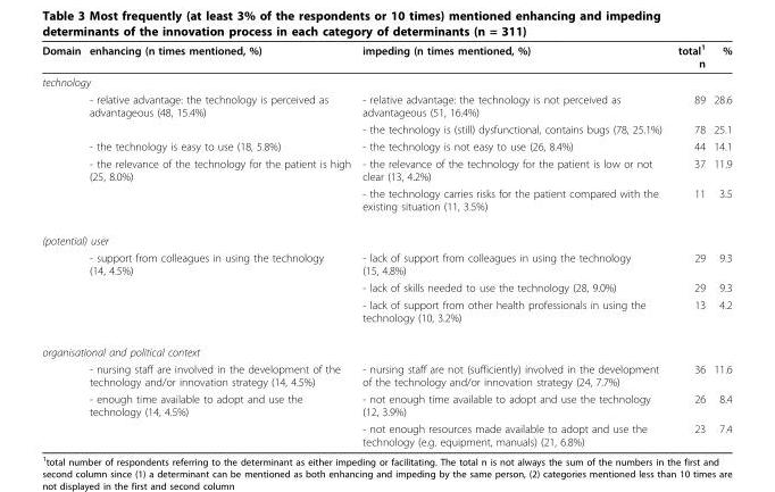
<table><thead><tr><td>Domain</td><td>enhancing (n times mentioned, %)</td><td>impeding (n times mentioned, %)</td><td>total<sup>1</sup> n</td><td>%</td></tr></thead><tbody><tr><td colspan="5">technology</td></tr><tr><td></td><td>- relative advantage: the technology is perceived as advantageous (48, 15.4%)</td><td>- relative advantage: the technology is not perceived as advantageous (51, 16.4%)</td><td>89</td><td>28.6</td></tr><tr><td></td><td></td><td>- the technology is (still) dysfunctional, contains bugs (78, 25.1%)</td><td>78</td><td>25.1</td></tr><tr><td></td><td>- the technology is easy to use (18, 5.8%)</td><td>- the technology is not easy to use (26, 8.4%)</td><td>44</td><td>14.1</td></tr><tr><td></td><td>- the relevance of the technology for the patient is high (25, 8.0%)</td><td>- the relevance of the technology for the patient is low or not clear (13, 4.2%)</td><td>37</td><td>11.9</td></tr><tr><td></td><td></td><td>- the technology carries risks for the patient compared with the existing situation (11, 3.5%)</td><td>11</td><td>3.5</td></tr><tr><td colspan="5">(potential) user</td></tr><tr><td></td><td>- support from colleagues in using the technology (14, 4.5%)</td><td>- lack of support from colleagues in using the technology (15, 4.8%)</td><td>29</td><td>9.3</td></tr><tr><td></td><td></td><td>- lack of skills needed to use the technology (28, 9.0%)</td><td>29</td><td>9.3</td></tr><tr><td></td><td></td><td>- lack of support from other health professionals in using the technology (10, 3.2%)</td><td>13</td><td>4.2</td></tr><tr><td colspan="5">organisational and political context</td></tr><tr><td></td><td>- nursing staff are involved in the development of the technology and/or innovation strategy (14, 4.5%)</td><td>- nursing staff are not (sufficiently) involved in the development of the technology and/or innovation strategy (24, 7.7%)</td><td>36</td><td>11.6</td></tr><tr><td></td><td>- enough time available to adopt and use the technology (14, 4.5%)</td><td>- not enough time available to adopt and use the technology (12, 3.9%)</td><td>26</td><td>8.4</td></tr><tr><td></td><td></td><td>- not enough resources made available to adopt and use the technology (e.g. equipment, manuals) (21, 6.8%)</td><td>23</td><td>7.4</td></tr></tbody></table>